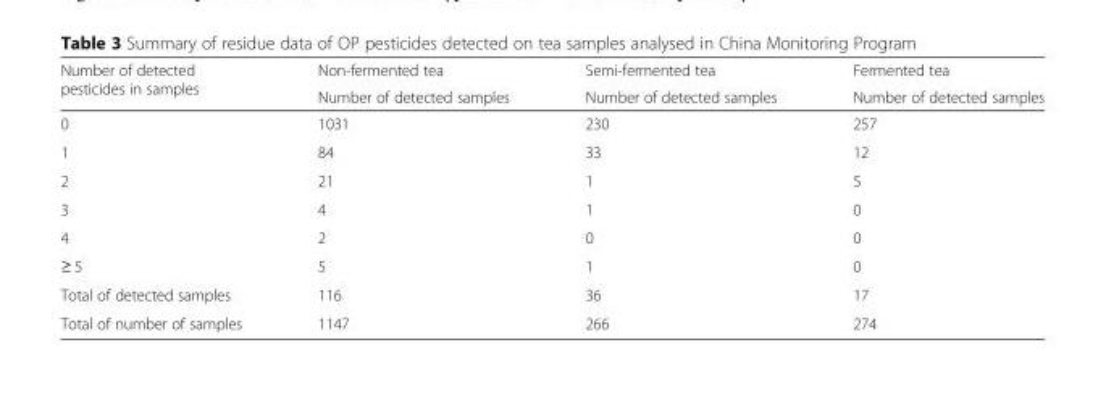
<table><thead><tr><td rowspan="2">Number of detected pesticides in samples</td><td rowspan="2">Non-fermented tea Number of detected samples</td><td rowspan="2">Semi-fermented tea Number of detected samples</td><td rowspan="2">Fermented tea Number of detected samples</td></tr><tr></tr></thead><tbody><tr><td>0</td><td>1031</td><td>230</td><td>257</td></tr><tr><td>1</td><td>84</td><td>33</td><td>12</td></tr><tr><td>2</td><td>21</td><td>1</td><td>5</td></tr><tr><td>3</td><td>4</td><td>1</td><td>0</td></tr><tr><td>4</td><td>2</td><td>0</td><td>0</td></tr><tr><td>≥ 5</td><td>5</td><td>1</td><td>0</td></tr><tr><td>Total of detected samples</td><td>116</td><td>36</td><td>17</td></tr><tr><td>Total of number of samples</td><td>1147</td><td>266</td><td>274</td></tr></tbody></table>